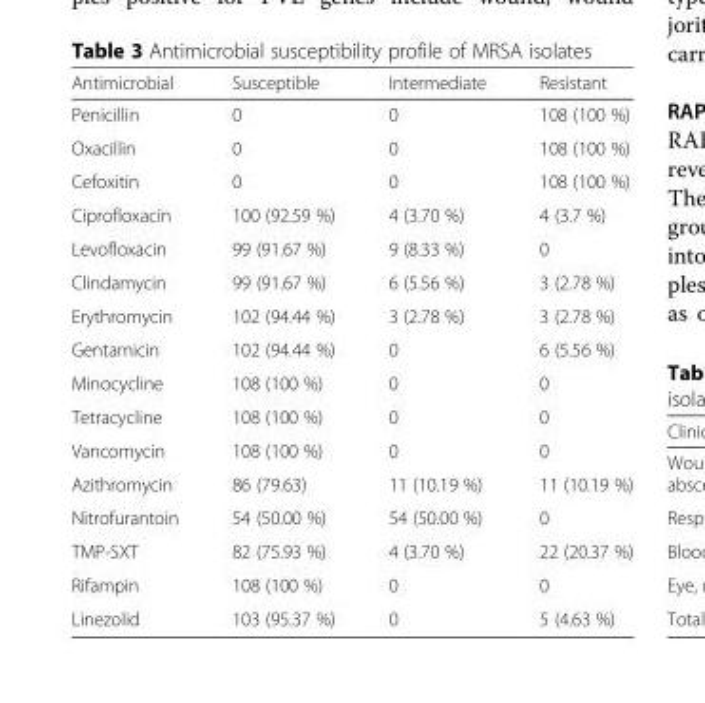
<table><thead><tr><td>Antimicrobial</td><td>Susceptible</td><td>Intermediate</td><td>Resistant</td></tr></thead><tbody><tr><td>Penicillin</td><td>0</td><td>0</td><td>108 (100 %)</td></tr><tr><td>Oxacillin</td><td>0</td><td>0</td><td>108 (100 %)</td></tr><tr><td>Cefoxitin</td><td>0</td><td>0</td><td>108 (100 %)</td></tr><tr><td>Ciprofloxacin</td><td>100 (92.59 %)</td><td>4 (3.70 %)</td><td>4 (3.7 %)</td></tr><tr><td>Levofloxacin</td><td>99 (91.67 %)</td><td>9 (8.33 %)</td><td>0</td></tr><tr><td>Clindamycin</td><td>99 (91.67 %)</td><td>6 (5.56 %)</td><td>3 (2.78 %)</td></tr><tr><td>Erythromycin</td><td>102 (94.44 %)</td><td>3 (2.78 %)</td><td>3 (2.78 %)</td></tr><tr><td>Gentamicin</td><td>102 (94.44 %)</td><td>0</td><td>6 (5.56 %)</td></tr><tr><td>Minocycline</td><td>108 (100 %)</td><td>0</td><td>0</td></tr><tr><td>Tetracycline</td><td>108 (100 %)</td><td>0</td><td>0</td></tr><tr><td>Vancomycin</td><td>108 (100 %)</td><td>0</td><td>0</td></tr><tr><td>Azithromycin</td><td>86 (79.63)</td><td>11 (10.19 %)</td><td>11 (10.19 %)</td></tr><tr><td>Nitrofurantoin</td><td>54 (50.00 %)</td><td>54 (50.00 %)</td><td>0</td></tr><tr><td>TMP-SXT</td><td>82 (75.93 %)</td><td>4 (3.70 %)</td><td>22 (20.37 %)</td></tr><tr><td>Rifampin</td><td>108 (100 %)</td><td>0</td><td>0</td></tr><tr><td>Linezolid</td><td>103 (95.37 %)</td><td>0</td><td>5 (4.63 %)</td></tr></tbody></table>